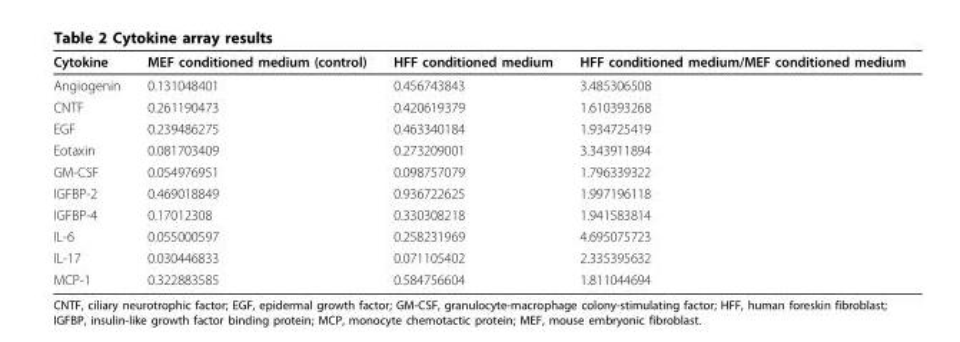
<table><thead><tr><td>Cytokine</td><td>MEF conditioned medium (control)</td><td>HFF conditioned medium</td><td>HFF conditioned medium/MEF conditioned medium</td></tr></thead><tbody><tr><td>Angiogenin</td><td>0.131048401</td><td>0.456743843</td><td>3.485306508</td></tr><tr><td>CNTF</td><td>0.261190473</td><td>0.420619379</td><td>1.610393268</td></tr><tr><td>EGF</td><td>0.239486275</td><td>0.463340184</td><td>1.934725419</td></tr><tr><td>Eotaxin</td><td>0.081703409</td><td>0.273209001</td><td>3.343911894</td></tr><tr><td>GM-CSF</td><td>0.054976951</td><td>0.098757079</td><td>1.796339322</td></tr><tr><td>IGFBP-2</td><td>0.469018849</td><td>0.936722625</td><td>1.997196118</td></tr><tr><td>IGFBP-4</td><td>0.17012308</td><td>0.330308218</td><td>1.941583814</td></tr><tr><td>IL-6</td><td>0.055000597</td><td>0.258231969</td><td>4.695075723</td></tr><tr><td>IL-17</td><td>0.030446833</td><td>0.071105402</td><td>2.335395632</td></tr><tr><td>MCP-1</td><td>0.322883585</td><td>0.584756604</td><td>1.811044694</td></tr></tbody></table>